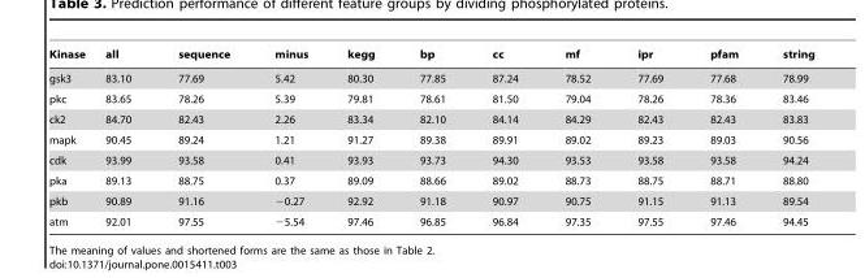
<table><thead><tr><td>Kinase</td><td>all</td><td>sequence</td><td>minus</td><td>kegg</td><td>bp</td><td>cc</td><td>mf</td><td>ipr</td><td>pfam</td><td>string</td></tr></thead><tbody><tr><td>gsk3</td><td>83.10</td><td>77.69</td><td>5.42</td><td>80.30</td><td>77.85</td><td>87.24</td><td>78.52</td><td>77.69</td><td>77.68</td><td>78.99</td></tr><tr><td>pkc</td><td>83.65</td><td>78.26</td><td>5.39</td><td>79.81</td><td>78.61</td><td>81.50</td><td>79.04</td><td>78.26</td><td>78.36</td><td>83.46</td></tr><tr><td>ck2</td><td>84.70</td><td>82.43</td><td>2.26</td><td>83.34</td><td>82.10</td><td>84.14</td><td>84.29</td><td>82.43</td><td>82.43</td><td>83.83</td></tr><tr><td>mapk</td><td>90.45</td><td>89.24</td><td>1.21</td><td>91.27</td><td>89.38</td><td>89.91</td><td>89.02</td><td>89.23</td><td>89.03</td><td>90.56</td></tr><tr><td>cdk</td><td>93.99</td><td>93.58</td><td>0.41</td><td>93.93</td><td>93.73</td><td>94.30</td><td>93.53</td><td>93.58</td><td>93.58</td><td>94.24</td></tr><tr><td>pka</td><td>89.13</td><td>88.75</td><td>0.37</td><td>89.09</td><td>88.66</td><td>89.02</td><td>88.73</td><td>88.75</td><td>88.71</td><td>88.80</td></tr><tr><td>pkb</td><td>90.89</td><td>91.16</td><td>−0.27</td><td>92.92</td><td>91.18</td><td>90.97</td><td>90.75</td><td>91.15</td><td>91.13</td><td>89.54</td></tr><tr><td>atm</td><td>92.01</td><td>97.55</td><td>−5.54</td><td>97.46</td><td>96.85</td><td>96.84</td><td>97.35</td><td>97.55</td><td>97.46</td><td>94.45</td></tr></tbody></table>